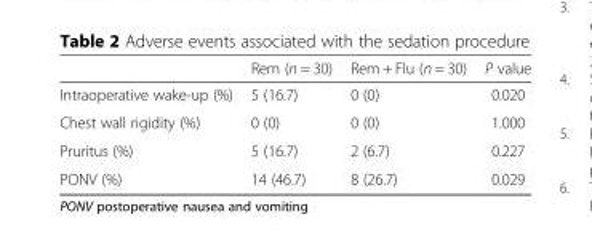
<table><thead><tr><td></td><td>Rem (n = 30)</td><td>Rem + Flu (n = 30)</td><td>P value</td></tr></thead><tbody><tr><td>Intraoperative wake-up (%)</td><td>5 (16.7)</td><td>0 (0)</td><td>0.020</td></tr><tr><td>Chest wall rigidity (%)</td><td>0 (0)</td><td>0 (0)</td><td>1.000</td></tr><tr><td>Pruritus (%)</td><td>5 (16.7)</td><td>2 (6.7)</td><td>0.227</td></tr><tr><td>PONV (%)</td><td>14 (46.7)</td><td>8 (26.7)</td><td>0.029</td></tr></tbody></table>